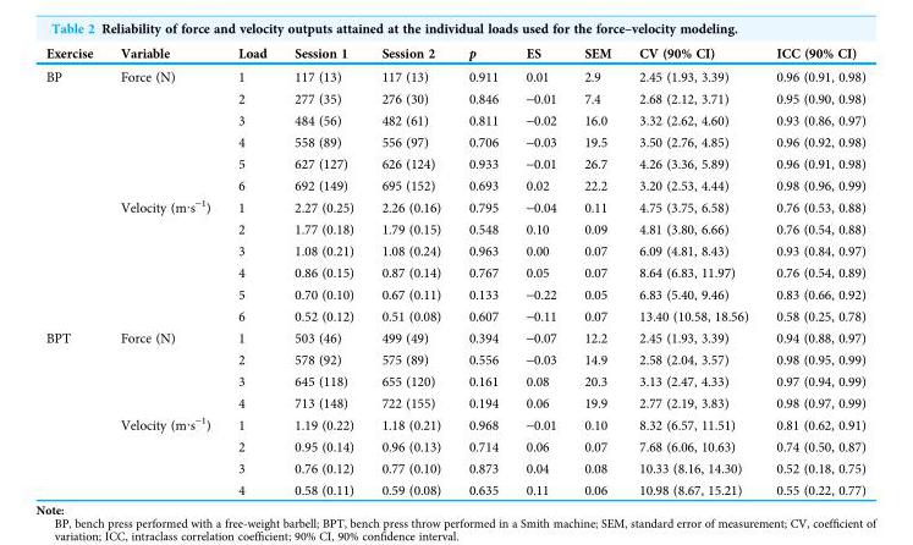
<table><thead><tr><td>Exercise</td><td>Variable</td><td>Load</td><td>Session 1</td><td>Session 2</td><td>p</td><td>ES</td><td>SEM</td><td>CV (90% CI)</td><td>ICC (90% CI)</td></tr></thead><tbody><tr><td rowspan="12">BP</td><td rowspan="6">Force (N)</td><td>1</td><td>117 (13)</td><td>117 (13)</td><td>0.911</td><td>0.01</td><td>2.9</td><td>2.45 (1.93, 3.39)</td><td>0.96 (0.91, 0.98)</td></tr><tr><td>2</td><td>277 (35)</td><td>276 (30)</td><td>0.846</td><td>-0.01</td><td>7.4</td><td>2.68 (2.12, 3.71)</td><td>0.95 (0.90, 0.98)</td></tr><tr><td>3</td><td>484 (56)</td><td>482 (61)</td><td>0.811</td><td>-0.02</td><td>16.0</td><td>3.32 (2.62, 4.60)</td><td>0.93 (0.86, 0.97)</td></tr><tr><td>4</td><td>558 (89)</td><td>556 (97)</td><td>0.706</td><td>-0.03</td><td>19.5</td><td>3.50 (2.76, 4.85)</td><td>0.96 (0.92, 0.98)</td></tr><tr><td>5</td><td>627 (127)</td><td>626 (124)</td><td>0.933</td><td>-0.01</td><td>26.7</td><td>4.26 (3.36, 5.89)</td><td>0.96 (0.91, 0.98)</td></tr><tr><td>6</td><td>692 (149)</td><td>695 (152)</td><td>0.693</td><td>0.02</td><td>22.2</td><td>3.20 (2.53, 4.44)</td><td>0.98 (0.96, 0.99)</td></tr><tr><td rowspan="6">Velocity (m·s<sup>-1</sup>)</td><td>1</td><td>2.27 (0.25)</td><td>2.26 (0.16)</td><td>0.795</td><td>-0.04</td><td>0.11</td><td>4.75 (3.75, 6.58)</td><td>0.76 (0.53, 0.88)</td></tr><tr><td>2</td><td>1.77 (0.18)</td><td>1.79 (0.15)</td><td>0.548</td><td>0.10</td><td>0.09</td><td>4.81 (3.80, 6.66)</td><td>0.76 (0.54, 0.88)</td></tr><tr><td>3</td><td>1.08 (0.21)</td><td>1.08 (0.24)</td><td>0.963</td><td>0.00</td><td>0.07</td><td>6.09 (4.81, 8.43)</td><td>0.93 (0.84, 0.97)</td></tr><tr><td>4</td><td>0.86 (0.15)</td><td>0.87 (0.14)</td><td>0.767</td><td>0.05</td><td>0.07</td><td>8.64 (6.83, 11.97)</td><td>0.76 (0.54, 0.89)</td></tr><tr><td>5</td><td>0.70 (0.10)</td><td>0.67 (0.11)</td><td>0.133</td><td>-0.22</td><td>0.05</td><td>6.83 (5.40, 9.46)</td><td>0.83 (0.66, 0.92)</td></tr><tr><td>6</td><td>0.52 (0.12)</td><td>0.51 (0.08)</td><td>0.607</td><td>-0.11</td><td>0.07</td><td>13.40 (10.58, 18.56)</td><td>0.58 (0.25, 0.78)</td></tr><tr><td rowspan="8">BPT</td><td rowspan="4">Force (N)</td><td>1</td><td>503 (46)</td><td>499 (49)</td><td>0.394</td><td>-0.07</td><td>12.2</td><td>2.45 (1.93, 3.39)</td><td>0.94 (0.88, 0.97)</td></tr><tr><td>2</td><td>578 (92)</td><td>575 (89)</td><td>0.556</td><td>-0.03</td><td>14.9</td><td>2.58 (2.04, 3.57)</td><td>0.98 (0.95, 0.99)</td></tr><tr><td>3</td><td>645 (118)</td><td>655 (120)</td><td>0.161</td><td>0.08</td><td>20.3</td><td>3.13 (2.47, 4.33)</td><td>0.97 (0.94, 0.99)</td></tr><tr><td>4</td><td>713 (148)</td><td>722 (155)</td><td>0.194</td><td>0.06</td><td>19.9</td><td>2.77 (2.19, 3.83)</td><td>0.98 (0.97, 0.99)</td></tr><tr><td rowspan="4">Velocity (m·s<sup>-1</sup>)</td><td>1</td><td>1.19 (0.22)</td><td>1.18 (0.21)</td><td>0.968</td><td>-0.01</td><td>0.10</td><td>8.32 (6.57, 11.51)</td><td>0.81 (0.62, 0.91)</td></tr><tr><td>2</td><td>0.95 (0.14)</td><td>0.96 (0.13)</td><td>0.714</td><td>0.06</td><td>0.07</td><td>7.68 (6.06, 10.63)</td><td>0.74 (0.50, 0.87)</td></tr><tr><td>3</td><td>0.76 (0.12)</td><td>0.77 (0.10)</td><td>0.873</td><td>0.04</td><td>0.08</td><td>10.33 (8.16, 14.30)</td><td>0.52 (0.18, 0.75)</td></tr><tr><td>4</td><td>0.58 (0.11)</td><td>0.59 (0.08)</td><td>0.635</td><td>0.11</td><td>0.06</td><td>10.98 (8.67, 15.21)</td><td>0.55 (0.22, 0.77)</td></tr></tbody></table>